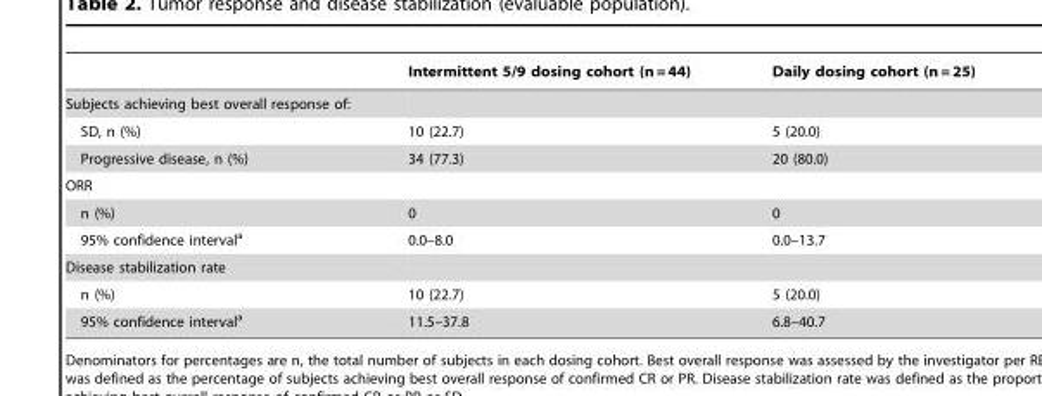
<table><thead><tr><td></td><td>Intermittent 5/9 dosing cohort (n = 44)</td><td>Daily dosing cohort (n = 25)</td></tr></thead><tbody><tr><td colspan="3">Subjects achieving best overall response of:</td></tr><tr><td>SD, n (%)</td><td>10 (22.7)</td><td>5 (20.0)</td></tr><tr><td>Progressive disease, n (%)</td><td>34 (77.3)</td><td>20 (80.0)</td></tr><tr><td colspan="3">ORR</td></tr><tr><td>n (%)</td><td>0</td><td>0</td></tr><tr><td>95% confidence interval<sup>a</sup></td><td>0.0–8.0</td><td>0.0–13.7</td></tr><tr><td colspan="3">Disease stabilization rate</td></tr><tr><td>n (%)</td><td>10 (22.7)</td><td>5 (20.0)</td></tr><tr><td>95% confidence interval<sup>a</sup></td><td>11.5–37.8</td><td>6.8–40.7</td></tr></tbody></table>